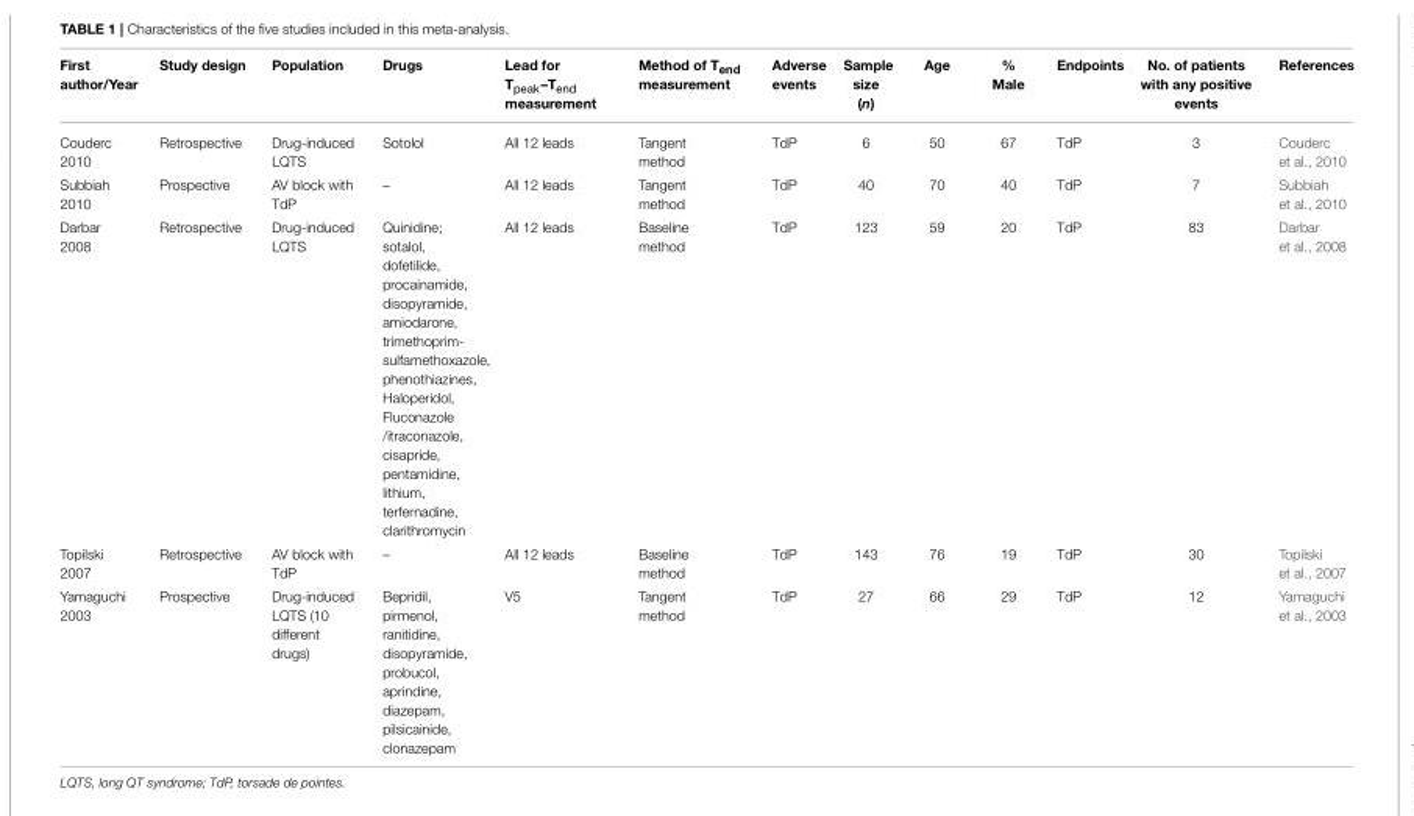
<table><thead><tr><td>First author/Year</td><td>Study design</td><td>Population</td><td>Drugs</td><td>Lead for T<sub>peak</sub>–T<sub>end</sub> measurement</td><td>Method of T<sub>end</sub> measurement</td><td>Adverse events</td><td>Sample size (n)</td><td>Age</td><td>% Male</td><td>Endpoints</td><td>No. of patients with any positive events</td><td>References</td></tr></thead><tbody><tr><td>Couderc 2010</td><td>Retrospective</td><td>Drug-induced LQTS</td><td>Sotolol</td><td>All 12 leads</td><td>Tangent method</td><td>TdP</td><td>6</td><td>50</td><td>67</td><td>TdP</td><td>3</td><td>Couderc et al., 2010</td></tr><tr><td>Subbiah 2010</td><td>Prospective</td><td>AV block with TdP</td><td>–</td><td>All 12 leads</td><td>Tangent method</td><td>TdP</td><td>40</td><td>70</td><td>40</td><td>TdP</td><td>7</td><td>Subbiah et al., 2010</td></tr><tr><td>Darbar 2008</td><td>Retrospective</td><td>Drug-induced LQTS</td><td>Quinidine; sotalol, dofetilide, procainamide, disopyramide, amiodarone, trimethoprim- sulfamethoxazole, phenothiazines, Haloperidol, Fluconazole /itraconazole, cisapride, pentamidine, lithium, terfernadine, clarithromycin</td><td>All 12 leads</td><td>Baseline method</td><td>TdP</td><td>123</td><td>59</td><td>20</td><td>TdP</td><td>83</td><td>Darbar et al., 2008</td></tr><tr><td>Topilski 2007</td><td>Retrospective</td><td>AV block with TdP</td><td>–</td><td>All 12 leads</td><td>Baseline method</td><td>TdP</td><td>143</td><td>76</td><td>19</td><td>TdP</td><td>30</td><td>Topilski et al., 2007</td></tr><tr><td>Yamaguchi 2003</td><td>Prospective</td><td>Drug-induced LQTS (10 different drugs)</td><td>Bepridil, pirmenol, ranitidine, disopyramide, probucol, aprindine, diazepam, pilsicainide, clonazepam</td><td>V5</td><td>Tangent method</td><td>TdP</td><td>27</td><td>66</td><td>29</td><td>TdP</td><td>12</td><td>Yamaguchi et al., 2003</td></tr></tbody></table>